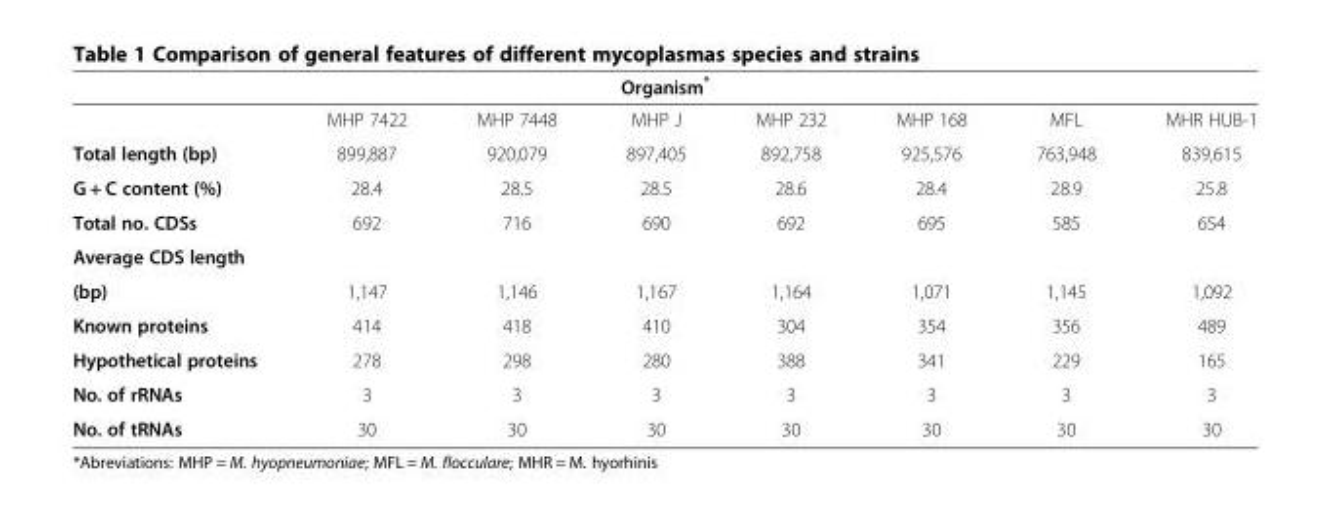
<table><thead><tr><td colspan="8">Organism*</td></tr><tr><td></td><td>MHP 7422</td><td>MHP 7448</td><td>MHP J</td><td>MHP 232</td><td>MHP 168</td><td>MFL</td><td>MHR HUB-1</td></tr></thead><tbody><tr><td>Total length (bp)</td><td>899,887</td><td>920,079</td><td>897,405</td><td>892,758</td><td>925,576</td><td>763,948</td><td>839,615</td></tr><tr><td>G + C content (%)</td><td>28.4</td><td>28.5</td><td>28.5</td><td>28.6</td><td>28.4</td><td>28.9</td><td>25.8</td></tr><tr><td>Total no. CDSs</td><td>692</td><td>716</td><td>690</td><td>692</td><td>695</td><td>585</td><td>654</td></tr><tr><td colspan="8">Average CDS length</td></tr><tr><td>(bp)</td><td>1,147</td><td>1,146</td><td>1,167</td><td>1,164</td><td>1,071</td><td>1,145</td><td>1,092</td></tr><tr><td>Known proteins</td><td>414</td><td>418</td><td>410</td><td>304</td><td>354</td><td>356</td><td>489</td></tr><tr><td>Hypothetical proteins</td><td>278</td><td>298</td><td>280</td><td>388</td><td>341</td><td>229</td><td>165</td></tr><tr><td>No. of rRNAs</td><td>3</td><td>3</td><td>3</td><td>3</td><td>3</td><td>3</td><td>3</td></tr><tr><td>No. of tRNAs</td><td>30</td><td>30</td><td>30</td><td>30</td><td>30</td><td>30</td><td>30</td></tr></tbody></table>